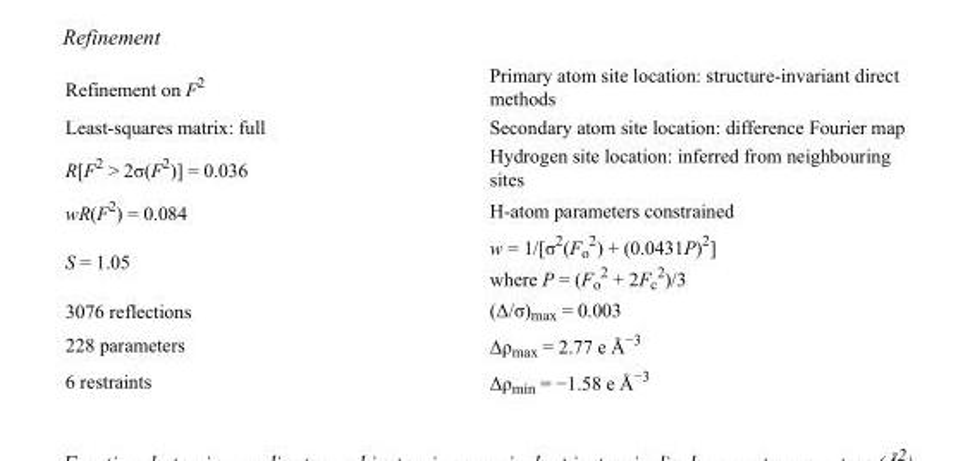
<table><tbody><tr><td>Refinement on F<sup>2</sup></td><td>Primary atom site location: structure-invariant direct methods</td></tr><tr><td>Least-squares matrix: full</td><td>Secondary atom site location: difference Fourier map</td></tr><tr><td>R[F<sup>2</sup> &gt; 2σ(F<sup>2</sup>)] = 0.036</td><td>Hydrogen site location: inferred from neighbouring sites</td></tr><tr><td>wR(F<sup>2</sup>) = 0.084</td><td>H-atom parameters constrained</td></tr><tr><td>S = 1.05</td><td>w = 1/[σ<sup>2</sup>(F<sub>o</sub> <sup>2</sup>) + (0.0431P)<sup>2</sup>] where P = (F<sub>o</sub> <sup>2</sup> + 2F<sub>c</sub> <sup>2</sup>)/3</td></tr><tr><td>3076 reflections</td><td>(Δ/σ)<sub>max</sub> = 0.003</td></tr><tr><td>228 parameters</td><td>Δρ<sub>max</sub> = 2.77 e Å<sup>−3</sup></td></tr><tr><td>6 restraints</td><td>Δρ<sub>min</sub> = −1.58 e Å<sup>−3</sup></td></tr></tbody></table>